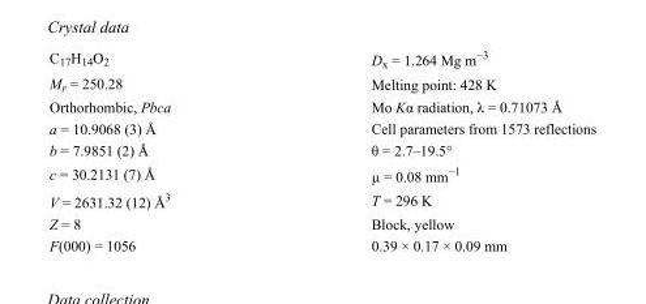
<table><tbody><tr><td>C<sub>17</sub>H<sub>14</sub>O<sub>2</sub></td><td>D<sub>x</sub> = 1.264 Mg m<sup>−3</sup></td></tr><tr><td>M<sub>r</sub> = 250.28</td><td>Melting point: 428 K</td></tr><tr><td>Orthorhombic, Pbca</td><td>Mo Kα radiation, λ = 0.71073 Å</td></tr><tr><td>a = 10.9068 (3) Å</td><td>Cell parameters from 1573 reflections</td></tr><tr><td>b = 7.9851 (2) Å</td><td>θ = 2.7–19.5°</td></tr><tr><td>c = 30.2131 (7) Å</td><td>µ = 0.08 mm<sup>−1</sup></td></tr><tr><td>V = 2631.32 (12) Å<sup>3</sup></td><td>T = 296 K</td></tr><tr><td>Z = 8</td><td>Block, yellow</td></tr><tr><td>F(000) = 1056</td><td>0.39 × 0.17 × 0.09 mm</td></tr></tbody></table>